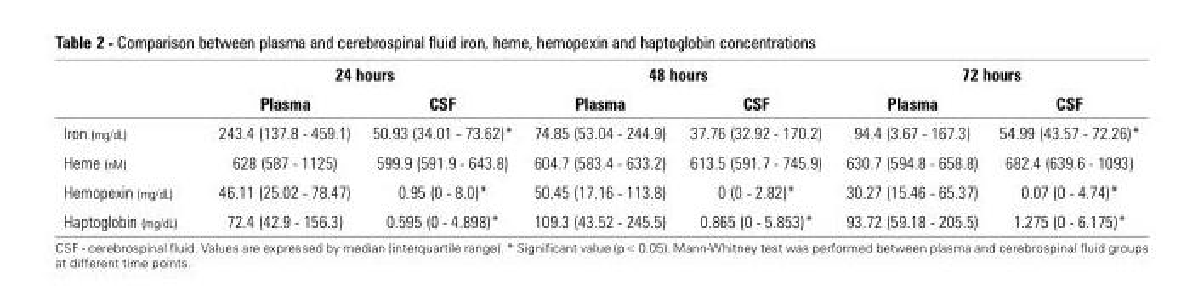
<table><thead><tr><td rowspan="2"></td><td colspan="2">24 hours</td><td colspan="2">48 hours</td><td colspan="2">72 hours</td></tr><tr><td>Plasma</td><td>CSF</td><td>Plasma</td><td>CSF</td><td>Plasma</td><td>CSF</td></tr></thead><tbody><tr><td>Iron (mg/dL)</td><td>243.4 (137.8 - 459.1)</td><td>50.93 (34.01 - 73.62)*</td><td>74.85 (53.04 - 244.9)</td><td>37.76 (32.92 - 170.2)</td><td>94.4 (3.67 - 167.3)</td><td>54.99 (43.57 - 72.26)*</td></tr><tr><td>Heme (nM)</td><td>628 (587 - 1125)</td><td>599.9 (591.9 - 643.8)</td><td>604.7 (583.4 - 633.2)</td><td>613.5 (591.7 - 745.9)</td><td>630.7 (594.8 - 658.8)</td><td>682.4 (639.6 - 1093)</td></tr><tr><td>Hemopexin (mg/dL)</td><td>46.11 (25.02 - 78.47)</td><td>0.95 (0 - 8.0)*</td><td>50.45 (17.16 - 113.8)</td><td>0 (0 - 2.82)*</td><td>30.27 (15.46 - 65.37)</td><td>0.07 (0 - 4.74)*</td></tr><tr><td>Haptoglobin (mg/dL)</td><td>72.4 (42.9 - 156.3)</td><td>0.595 (0 - 4.898)*</td><td>109.3 (43.52 - 245.5)</td><td>0.865 (0 - 5.853)*</td><td>93.72 (59.18 - 205.5)</td><td>1.275 (0 - 6.175)*</td></tr></tbody></table>